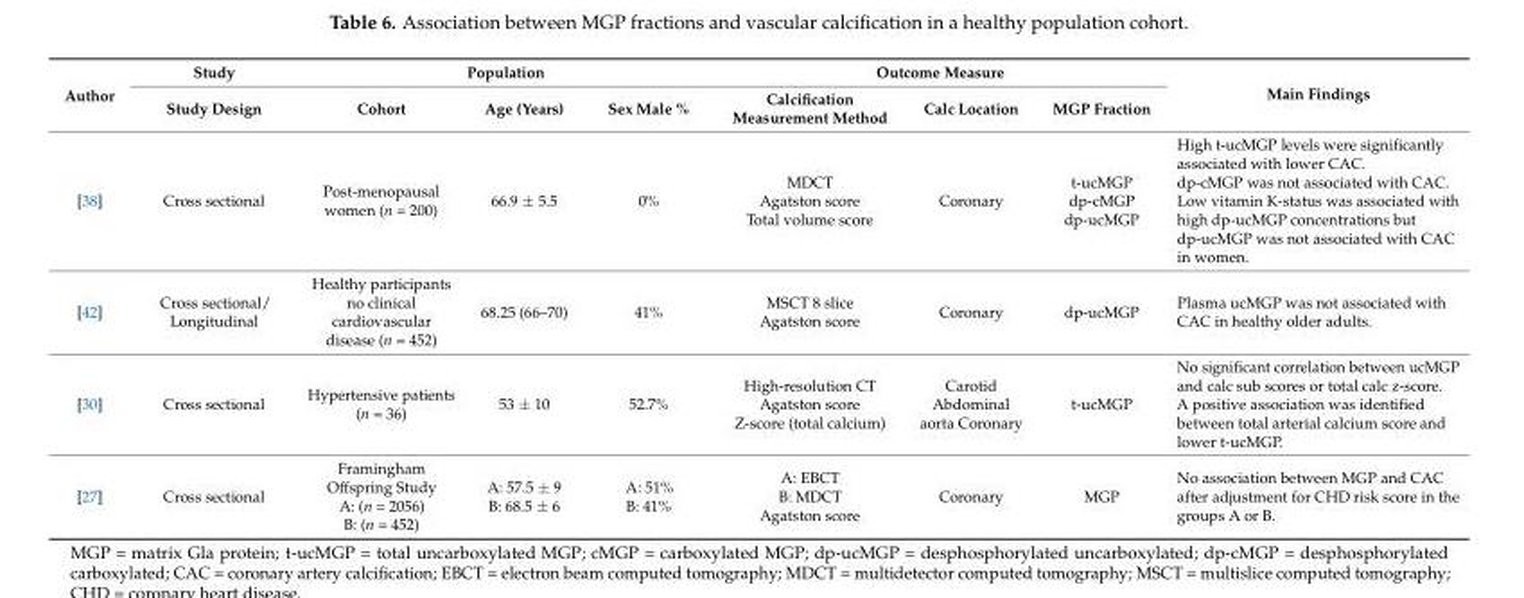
<table><thead><tr><td rowspan="2">Author</td><td rowspan="2">Study Study Design</td><td colspan="3">Population</td><td colspan="3">Outcome Measure</td><td rowspan="2">Main Findings</td></tr><tr><td>Cohort</td><td>Age (Years)</td><td>Sex Male %</td><td>Calcification Measurement Method</td><td>Calc Location</td><td>MGP Fraction</td></tr></thead><tbody><tr><td>[38]</td><td>Cross sectional</td><td>Post-menopausal women (n = 200)</td><td>66.9 ± 5.5</td><td>0%</td><td>MDCT Agatston score Total volume score</td><td>Coronary</td><td>t-ucMGP dp-cMGP dp-ucMGP</td><td>High t-ucMGP levels were significantly associated with lower CAC. dp-cMGP was not associated with CAC. Low vitamin K-status was associated with high dp-ucMGP concentrations but dp-ucMGP was not associated with CAC in women.</td></tr><tr><td>[42]</td><td>Cross sectional/ Longitudinal</td><td>Healthy participants no clinical cardiovascular disease (n = 452)</td><td>68.25 (66–70)</td><td>41%</td><td>MSCT 8 slice Agatston score</td><td>Coronary</td><td>dp-ucMGP</td><td>Plasma ucMGP was not associated with CAC in healthy older adults.</td></tr><tr><td>[30]</td><td>Cross sectional</td><td>Hypertensive patients (n = 36)</td><td>53 ± 10</td><td>52.7%</td><td>High-resolution CT Agatston score Z-score (total calcium)</td><td>Carotid Abdominal aorta Coronary</td><td>t-ucMGP</td><td>No significant correlation between ucMGP and calc sub scores or total calc z-score. A positive association was identified between total arterial calcium score and lower t-ucMGP.</td></tr><tr><td>[27]</td><td>Cross sectional</td><td>Framingham Offspring Study A: (n = 2056) B: (n = 452)</td><td>A: 57.5 ± 9 B: 68.5 ± 6</td><td>A: 51% B: 41%</td><td>A: EBCT B: MDCT Agatston score</td><td>Coronary</td><td>MGP</td><td>No association between MGP and CAC after adjustment for CHD risk score in the groups A or B.</td></tr></tbody></table>